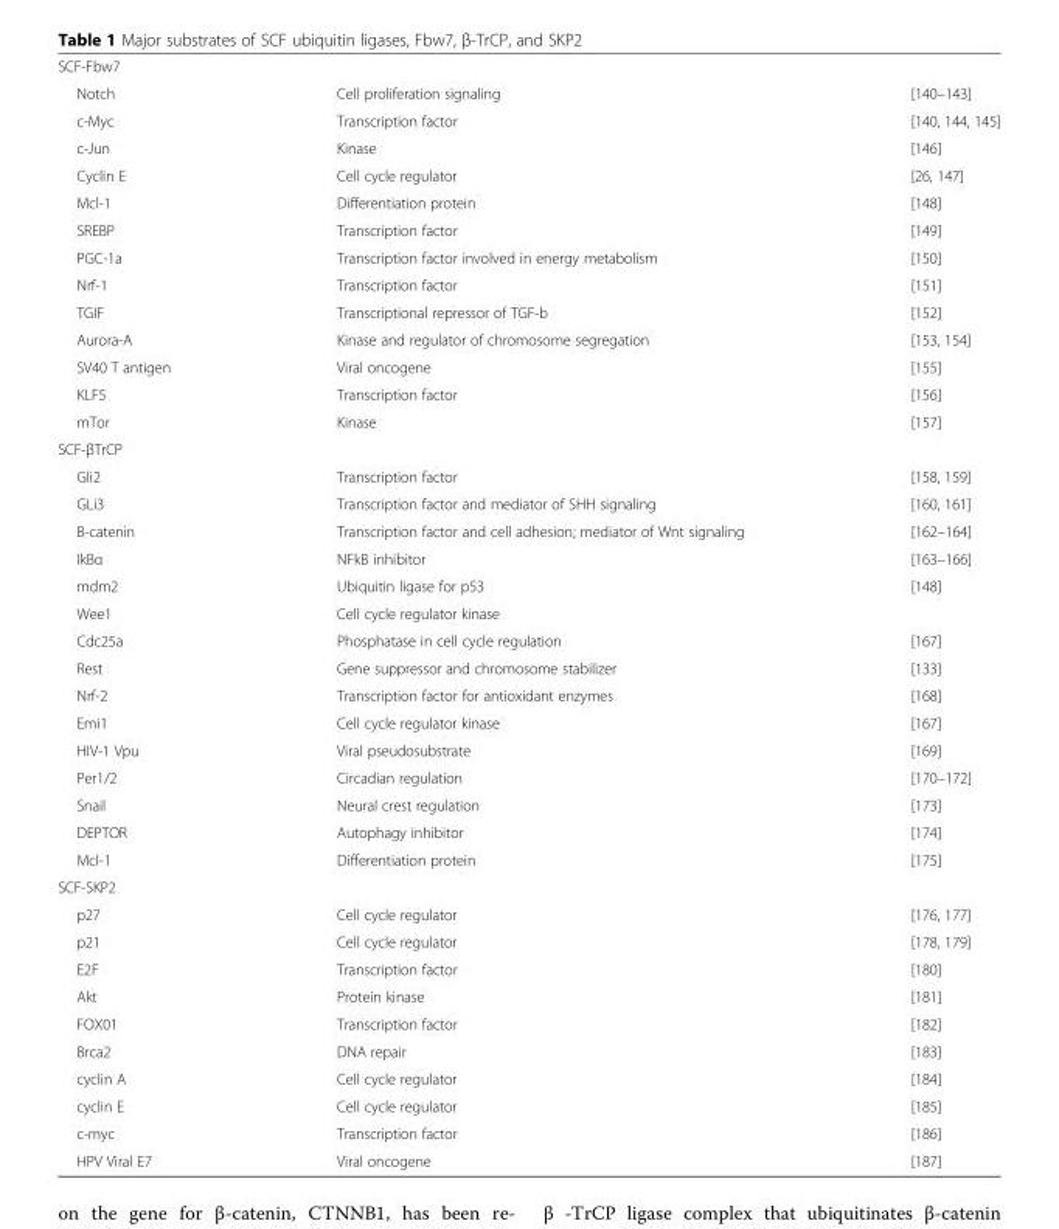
<table><tbody><tr><td colspan="3">SCF-Fbw7</td></tr><tr><td>Notch</td><td>Cell proliferation signaling</td><td>[140–143]</td></tr><tr><td>c-Myc</td><td>Transcription factor</td><td>[140, 144, 145]</td></tr><tr><td>c-Jun</td><td>Kinase</td><td>[146]</td></tr><tr><td>Cyclin E</td><td>Cell cycle regulator</td><td>[26, 147]</td></tr><tr><td>Mcl-1</td><td>Differentiation protein</td><td>[148]</td></tr><tr><td>SREBP</td><td>Transcription factor</td><td>[149]</td></tr><tr><td>PGC-1a</td><td>Transcription factor involved in energy metabolism</td><td>[150]</td></tr><tr><td>Nrf-1</td><td>Transcription factor</td><td>[151]</td></tr><tr><td>TGIF</td><td>Transcriptional repressor of TGF-b</td><td>[152]</td></tr><tr><td>Aurora-A</td><td>Kinase and regulator of chromosome segregation</td><td>[153, 154]</td></tr><tr><td>SV40 T antigen</td><td>Viral oncogene</td><td>[155]</td></tr><tr><td>KLF5</td><td>Transcription factor</td><td>[156]</td></tr><tr><td>mTor</td><td>Kinase</td><td>[157]</td></tr><tr><td colspan="3">SCF-βTrCP</td></tr><tr><td>Gli2</td><td>Transcription factor</td><td>[158, 159]</td></tr><tr><td>GLi3</td><td>Transcription factor and mediator of SHH signaling</td><td>[160, 161]</td></tr><tr><td>B-catenin</td><td>Transcription factor and cell adhesion; mediator of Wnt signaling</td><td>[162–164]</td></tr><tr><td>IkBα</td><td>NFkB inhibitor</td><td>[163–166]</td></tr><tr><td>mdm2</td><td>Ubiquitin ligase for p53</td><td>[148]</td></tr><tr><td>Wee1</td><td>Cell cycle regulator kinase</td><td></td></tr><tr><td>Cdc25a</td><td>Phosphatase in cell cycle regulation</td><td>[167]</td></tr><tr><td>Rest</td><td>Gene suppressor and chromosome stabilizer</td><td>[133]</td></tr><tr><td>Nrf-2</td><td>Transcription factor for antioxidant enzymes</td><td>[168]</td></tr><tr><td>Emi1</td><td>Cell cycle regulator kinase</td><td>[167]</td></tr><tr><td>HIV-1 Vpu</td><td>Viral pseudosubstrate</td><td>[169]</td></tr><tr><td>Per1/2</td><td>Circadian regulation</td><td>[170–172]</td></tr><tr><td>Snail</td><td>Neural crest regulation</td><td>[173]</td></tr><tr><td>DEPTOR</td><td>Autophagy inhibitor</td><td>[174]</td></tr><tr><td>Mcl-1</td><td>Differentiation protein</td><td>[175]</td></tr><tr><td colspan="3">SCF-SKP2</td></tr><tr><td>p27</td><td>Cell cycle regulator</td><td>[176, 177]</td></tr><tr><td>p21</td><td>Cell cycle regulator</td><td>[178, 179]</td></tr><tr><td>E2F</td><td>Transcription factor</td><td>[180]</td></tr><tr><td>Akt</td><td>Protein kinase</td><td>[181]</td></tr><tr><td>FOX01</td><td>Transcription factor</td><td>[182]</td></tr><tr><td>Brca2</td><td>DNA repair</td><td>[183]</td></tr><tr><td>cyclin A</td><td>Cell cycle regulator</td><td>[184]</td></tr><tr><td>cyclin E</td><td>Cell cycle regulator</td><td>[185]</td></tr><tr><td>c-myc</td><td>Transcription factor</td><td>[186]</td></tr><tr><td>HPV Viral E7</td><td>Viral oncogene</td><td>[187]</td></tr></tbody></table>